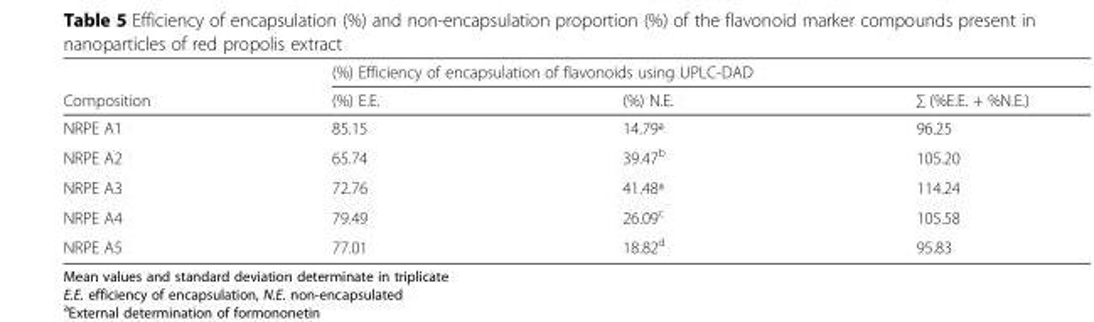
<table><thead><tr><td rowspan="2">Composition</td><td colspan="3">(%) Efficiency of encapsulation of flavonoids using UPLC-DAD</td></tr><tr><td>(%) E.E.</td><td>(%) N.E.</td><td>∑ (%E.E. + %N.E.)</td></tr></thead><tbody><tr><td>NRPE A1</td><td>85.15</td><td>14.79ª</td><td>96.25</td></tr><tr><td>NRPE A2</td><td>65.74</td><td>39.47<sup>b</sup></td><td>105.20</td></tr><tr><td>NRPE A3</td><td>72.76</td><td>41.48ª</td><td>114.24</td></tr><tr><td>NRPE A4</td><td>79.49</td><td>26.09<sup>c</sup></td><td>105.58</td></tr><tr><td>NRPE A5</td><td>77.01</td><td>18.82<sup>d</sup></td><td>95.83</td></tr></tbody></table>